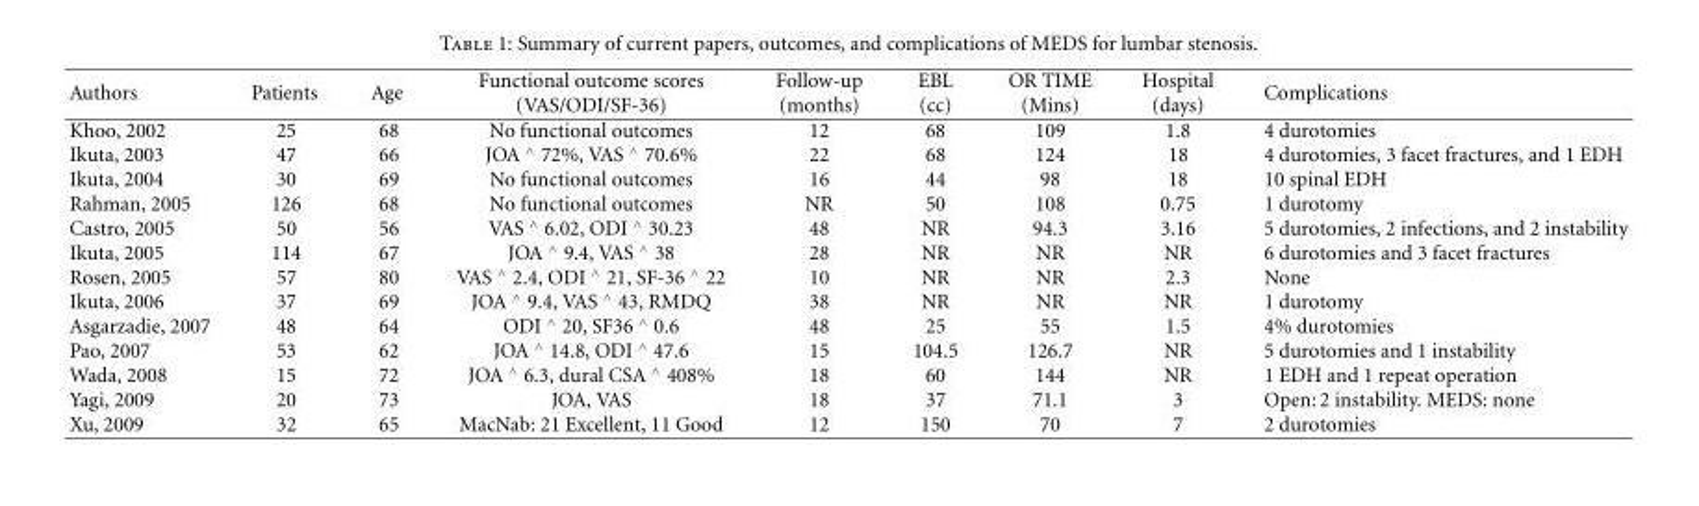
<table><thead><tr><td rowspan="2">Authors</td><td rowspan="2">Patients</td><td rowspan="2">Age</td><td rowspan="2">Functional outcome scores (VAS/ODI/SF-36)</td><td rowspan="2">Follow-up (months)</td><td rowspan="2">EBL (cc)</td><td rowspan="2">OR TIME (Mins)</td><td rowspan="2">Hospital (days)</td><td rowspan="2">Complications</td></tr><tr></tr></thead><tbody><tr><td>Khoo, 2002</td><td>25</td><td>68</td><td>No functional outcomes</td><td>12</td><td>68</td><td>109</td><td>1.8</td><td>4 durotomies</td></tr><tr><td>Ikuta, 2003</td><td>47</td><td>66</td><td>JOA <sup>∧</sup> 72%, VAS <sup>∧</sup> 70.6%</td><td>22</td><td>68</td><td>124</td><td>18</td><td>4 durotomies, 3 facet fractures, and 1 EDH</td></tr><tr><td>Ikuta, 2004</td><td>30</td><td>69</td><td>No functional outcomes</td><td>16</td><td>44</td><td>98</td><td>18</td><td>10 spinal EDH</td></tr><tr><td>Rahman, 2005</td><td>126</td><td>68</td><td>No functional outcomes</td><td>NR</td><td>50</td><td>108</td><td>0.75</td><td>1 durotomy</td></tr><tr><td>Castro, 2005</td><td>50</td><td>56</td><td>VAS <sup>∧</sup> 6.02, ODI <sup>∧</sup> 30.23</td><td>48</td><td>NR</td><td>94.3</td><td>3.16</td><td>5 durotomies, 2 infections, and 2 instability</td></tr><tr><td>Ikuta, 2005</td><td>114</td><td>67</td><td>JOA <sup>∧</sup> 9.4, VAS <sup>∧</sup> 38</td><td>28</td><td>NR</td><td>NR</td><td>NR</td><td>6 durotomies and 3 facet fractures</td></tr><tr><td>Rosen, 2005</td><td>57</td><td>80</td><td>VAS <sup>∧</sup> 2.4, ODI <sup>∧</sup> 21, SF-36 <sup>∧</sup> 22</td><td>10</td><td>NR</td><td>NR</td><td>2.3</td><td>None</td></tr><tr><td>Ikuta, 2006</td><td>37</td><td>69</td><td>JOA <sup>∧</sup> 9.4, VAS <sup>∧</sup> 43, RMDQ</td><td>38</td><td>NR</td><td>NR</td><td>NR</td><td>1 durotomy</td></tr><tr><td>Asgarzadie, 2007</td><td>48</td><td>64</td><td>ODI <sup>∧</sup> 20, SF36 <sup>∧</sup> 0.6</td><td>48</td><td>25</td><td>55</td><td>1.5</td><td>4% durotomies</td></tr><tr><td>Pao, 2007</td><td>53</td><td>62</td><td>JOA <sup>∧</sup> 14.8, ODI <sup>∧</sup> 47.6</td><td>15</td><td>104.5</td><td>126.7</td><td>NR</td><td>5 durotomies and 1 instability</td></tr><tr><td>Wada, 2008</td><td>15</td><td>72</td><td>JOA <sup>∧</sup> 6.3, dural CSA <sup>∧</sup> 408%</td><td>18</td><td>60</td><td>144</td><td>NR</td><td>1 EDH and 1 repeat operation</td></tr><tr><td>Yagi, 2009</td><td>20</td><td>73</td><td>JOA, VAS</td><td>18</td><td>37</td><td>71.1</td><td>3</td><td>Open: 2 instability. MEDS: none</td></tr><tr><td>Xu, 2009</td><td>32</td><td>65</td><td>MacNab: 21 Excellent, 11 Good</td><td>12</td><td>150</td><td>70</td><td>7</td><td>2 durotomies</td></tr></tbody></table>